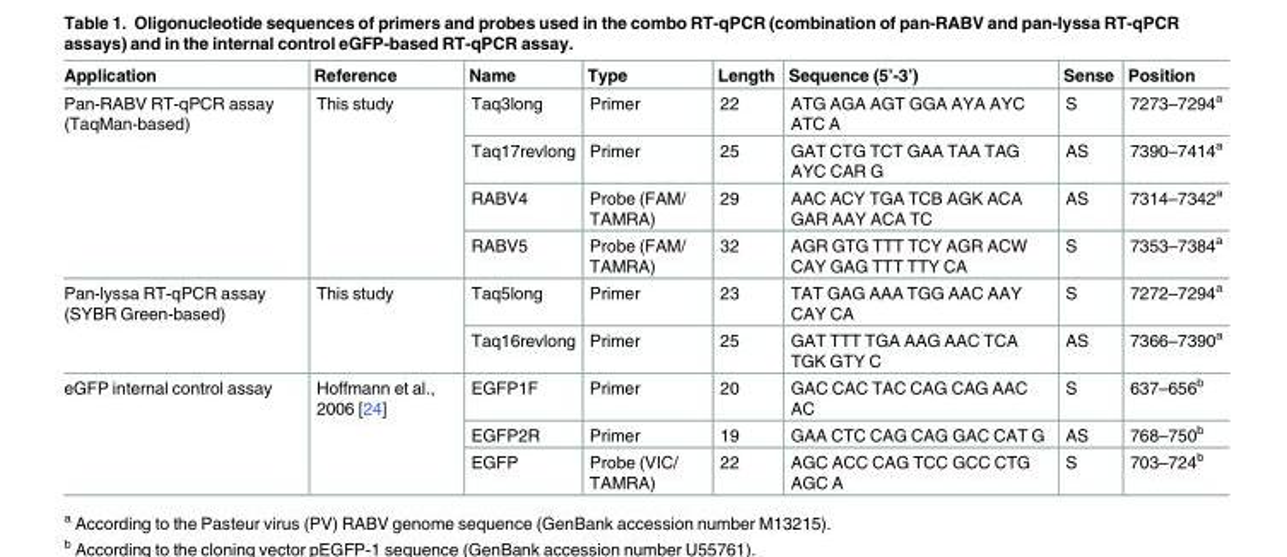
<table><thead><tr><td>Application</td><td>Reference</td><td>Name</td><td>Type</td><td>Length</td><td>Sequence (5’-3’)</td><td>Sense</td><td>Position</td></tr></thead><tbody><tr><td rowspan="4">Pan-RABV RT-qPCR assay (TaqMan-based)</td><td rowspan="4">This study</td><td>Taq3long</td><td>Primer</td><td>22</td><td>ATG AGA AGT GGA AYA AYC ATC A</td><td>S</td><td>7273–7294<sup>a</sup></td></tr><tr><td>Taq17revlong</td><td>Primer</td><td>25</td><td>GAT CTG TCT GAA TAA TAG AYC CAR G</td><td>AS</td><td>7390–7414<sup>a</sup></td></tr><tr><td>RABV4</td><td>Probe (FAM/ TAMRA)</td><td>29</td><td>AAC ACY TGA TCB AGK ACA GAR AAY ACA TC</td><td>AS</td><td>7314–7342<sup>a</sup></td></tr><tr><td>RABV5</td><td>Probe (FAM/ TAMRA)</td><td>32</td><td>AGR GTG TTT TCY AGR ACW CAY GAG TTT TTY CA</td><td>S</td><td>7353–7384<sup>a</sup></td></tr><tr><td rowspan="2">Pan-lyssa RT-qPCR assay (SYBR Green-based)</td><td rowspan="2">This study</td><td>Taq5long</td><td>Primer</td><td>23</td><td>TAT GAG AAA TGG AAC AAY CAY CA</td><td>S</td><td>7272–7294<sup>a</sup></td></tr><tr><td>Taq16revlong</td><td>Primer</td><td>25</td><td>GAT TTT TGA AAG AAC TCA TGK GTY C</td><td>AS</td><td>7366–7390<sup>a</sup></td></tr><tr><td rowspan="3">eGFP internal control assay</td><td rowspan="3">Hoffmann et al., 2006 [24]</td><td>EGFP1F</td><td>Primer</td><td>20</td><td>GAC CAC TAC CAG CAG AAC AC</td><td>S</td><td>637–656<sup>b</sup></td></tr><tr><td>EGFP2R</td><td>Primer</td><td>19</td><td>GAA CTC CAG CAG GAC CAT G</td><td>AS</td><td>768–750<sup>b</sup></td></tr><tr><td>EGFP</td><td>Probe (VIC/ TAMRA)</td><td>22</td><td>AGC ACC CAG TCC GCC CTG AGC A</td><td>S</td><td>703–724<sup>b</sup></td></tr></tbody></table>